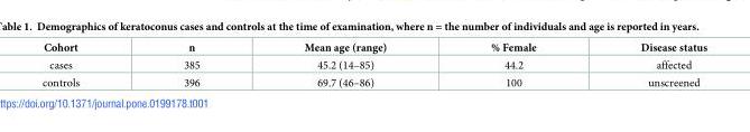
<table><thead><tr><td>Cohort</td><td>n</td><td>Mean age (range)</td><td>% Female</td><td>Disease status</td></tr></thead><tbody><tr><td>cases</td><td>385</td><td>45.2 (14–85)</td><td>44.2</td><td>affected</td></tr><tr><td>controls</td><td>396</td><td>69.7 (46–86)</td><td>100</td><td>unscreened</td></tr></tbody></table>